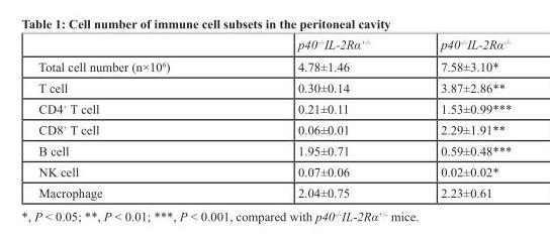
<table><thead><tr><td></td><td>p40<sup>-/-</sup>IL-2Rα<sup>+/-</sup></td><td>p40<sup>-/-</sup>IL-2Rα<sup>-/-</sup></td></tr></thead><tbody><tr><td>Total cell number (n×10<sup>6</sup>)</td><td>4.78±1.46</td><td>7.58±3.10*</td></tr><tr><td>T cell</td><td>0.30±0.14</td><td>3.87±2.86**</td></tr><tr><td>CD4<sup>+</sup> T cell</td><td>0.21±0.11</td><td>1.53±0.99***</td></tr><tr><td>CD8<sup>+</sup> T cell</td><td>0.06±0.01</td><td>2.29±1.91**</td></tr><tr><td>B cell</td><td>1.95±0.71</td><td>0.59±0.48***</td></tr><tr><td>NK cell</td><td>0.07±0.06</td><td>0.02±0.02*</td></tr><tr><td>Macrophage</td><td>2.04±0.75</td><td>2.23±0.61</td></tr></tbody></table>